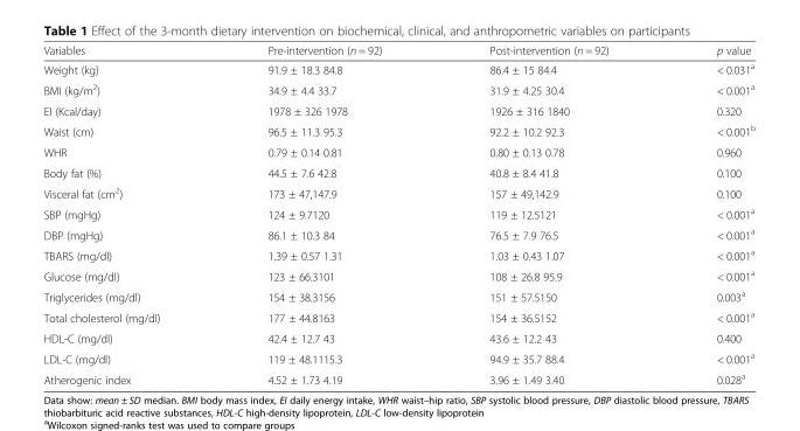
<table><thead><tr><td>Variables</td><td>Pre-intervention (n = 92)</td><td>Post-intervention (n = 92)</td><td>p value</td></tr></thead><tbody><tr><td>Weight (kg)</td><td>91.9 ± 18.3 84.8</td><td>86.4 ± 15 84.4</td><td>&lt; 0.031<sup>a</sup></td></tr><tr><td>BMI (kg/m<sup>2</sup>)</td><td>34.9 ± 4.4 33.7</td><td>31.9 ± 4.25 30.4</td><td>&lt; 0.001<sup>a</sup></td></tr><tr><td>EI (Kcal/day)</td><td>1978 ± 326 1978</td><td>1926 ± 316 1840</td><td>0.320</td></tr><tr><td>Waist (cm)</td><td>96.5 ± 11.3 95.3</td><td>92.2 ± 10.2 92.3</td><td>&lt; 0.001<sup>b</sup></td></tr><tr><td>WHR</td><td>0.79 ± 0.14 0.81</td><td>0.80 ± 0.13 0.78</td><td>0.960</td></tr><tr><td>Body fat (%)</td><td>44.5 ± 7.6 42.8</td><td>40.8 ± 8.4 41.8</td><td>0.100</td></tr><tr><td>Visceral fat (cm<sup>2</sup>)</td><td>173 ± 47,147.9</td><td>157 ± 49,142.9</td><td>0.100</td></tr><tr><td>SBP (mgHg)</td><td>124 ± 9.7120</td><td>119 ± 12.5121</td><td>&lt; 0.001<sup>a</sup></td></tr><tr><td>DBP (mgHg)</td><td>86.1 ± 10.3 84</td><td>76.5 ± 7.9 76.5</td><td>&lt; 0.001<sup>a</sup></td></tr><tr><td>TBARS (mg/dl)</td><td>1.39 ± 0.57 1.31</td><td>1.03 ± 0.43 1.07</td><td>&lt; 0.001<sup>a</sup></td></tr><tr><td>Glucose (mg/dl)</td><td>123 ± 66.3101</td><td>108 ± 26.8 95.9</td><td>&lt; 0.001<sup>a</sup></td></tr><tr><td>Triglycerides (mg/dl)</td><td>154 ± 38.3156</td><td>151 ± 57.5150</td><td>0.003<sup>a</sup></td></tr><tr><td>Total cholesterol (mg/dl)</td><td>177 ± 44.8163</td><td>154 ± 36.5152</td><td>&lt; 0.001<sup>a</sup></td></tr><tr><td>HDL-C (mg/dl)</td><td>42.4 ± 12.7 43</td><td>43.6 ± 12.2 43</td><td>0.400</td></tr><tr><td>LDL-C (mg/dl)</td><td>119 ± 48.1115.3</td><td>94.9 ± 35.7 88.4</td><td>&lt; 0.001<sup>a</sup></td></tr><tr><td>Atherogenic index</td><td>4.52 ± 1.73 4.19</td><td>3.96 ± 1.49 3.40</td><td>0.028<sup>a</sup></td></tr></tbody></table>